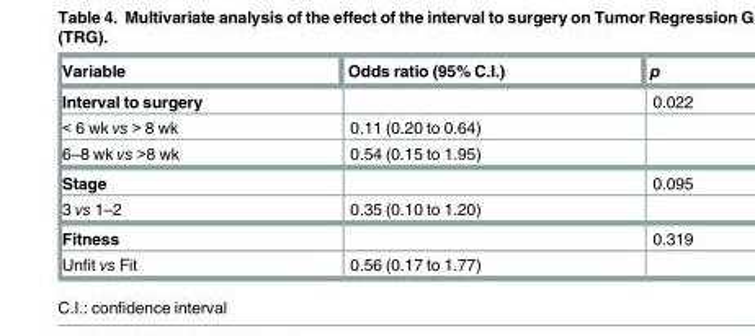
<table><thead><tr><td>Variable</td><td>Odds ratio (95% C.I.)</td><td>p</td></tr></thead><tbody><tr><td>Interval to surgery</td><td></td><td>0.022</td></tr><tr><td>&lt; 6 wk vs &gt; 8 wk</td><td>0.11 (0.20 to 0.64)</td><td></td></tr><tr><td>6–8 wk vs &gt;8 wk</td><td>0.54 (0.15 to 1.95)</td><td></td></tr><tr><td>Stage</td><td></td><td>0.095</td></tr><tr><td>3 vs 1–2</td><td>0.35 (0.10 to 1.20)</td><td></td></tr><tr><td>Fitness</td><td></td><td>0.319</td></tr><tr><td>Unfit vs Fit</td><td>0.56 (0.17 to 1.77)</td><td></td></tr></tbody></table>